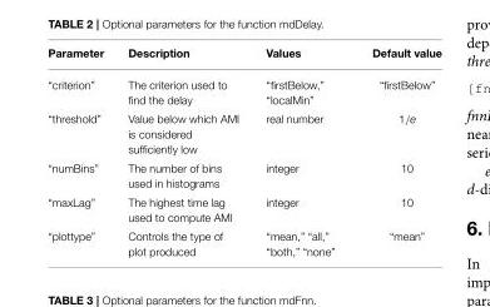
<table><thead><tr><td>Parameter</td><td>Description</td><td>Values</td><td>Default value</td></tr></thead><tbody><tr><td>“criterion”</td><td>The criterion used to find the delay</td><td>“firstBelow,” “localMin”</td><td>“firstBelow”</td></tr><tr><td>“threshold”</td><td>Value below which AMI is considered sufficiently low</td><td>real number</td><td>1/e</td></tr><tr><td>“numBins”</td><td>The number of bins used in histograms</td><td>integer</td><td>10</td></tr><tr><td>“maxLag”</td><td>The highest time lag used to compute AMI</td><td>integer</td><td>10</td></tr><tr><td>“plottype”</td><td>Controls the type of plot produced</td><td>“mean,” “all,” “both,” “none”</td><td>“mean”</td></tr></tbody></table>